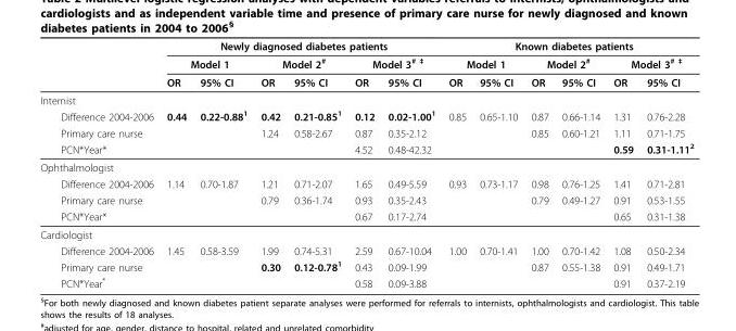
<table><thead><tr><td rowspan="3"></td><td colspan="6">Newly diagnosed diabetes patients</td><td colspan="6">Known diabetes patients</td></tr><tr><td colspan="2">Model 1</td><td colspan="2">Model 2<sup>#</sup></td><td colspan="2">Model 3<sup># ‡</sup></td><td colspan="2">Model 1</td><td colspan="2">Model 2<sup>#</sup></td><td colspan="2">Model 3<sup># ‡</sup></td></tr><tr><td>OR</td><td>95% CI</td><td>OR</td><td>95% CI</td><td>OR</td><td>95% CI</td><td>OR</td><td>95% CI</td><td>OR</td><td>95% CI</td><td>OR</td><td>95% CI</td></tr></thead><tbody><tr><td colspan="13">Internist</td></tr><tr><td>Difference 2004-2006</td><td>0.44</td><td>0.22-0.88<sup>1</sup></td><td>0.42</td><td>0.21-0.85<sup>1</sup></td><td>0.12</td><td>0.02-1.00<sup>1</sup></td><td>0.85</td><td>0.65-1.10</td><td>0.87</td><td>0.66-1.14</td><td>1.31</td><td>0.76-2.28</td></tr><tr><td>Primary care nurse</td><td></td><td></td><td>1.24</td><td>0.58-2.67</td><td>0.87</td><td>0.35-2.12</td><td></td><td></td><td>0.85</td><td>0.60-1.21</td><td>1.11</td><td>0.71-1.75</td></tr><tr><td>PCN*Year*</td><td></td><td></td><td></td><td></td><td>4.52</td><td>0.48-42.32</td><td></td><td></td><td></td><td></td><td>0.59</td><td>0.31-1.11<sup>2</sup></td></tr><tr><td colspan="13">Ophthalmologist</td></tr><tr><td>Difference 2004-2006</td><td>1.14</td><td>0.70-1.87</td><td>1.21</td><td>0.71-2.07</td><td>1.65</td><td>0.49-5.59</td><td>0.93</td><td>0.73-1.17</td><td>0.98</td><td>0.76-1.25</td><td>1.41</td><td>0.71-2.81</td></tr><tr><td>Primary care nurse</td><td></td><td></td><td>0.79</td><td>0.36-1.74</td><td>0.93</td><td>0.35-2.43</td><td></td><td></td><td>0.79</td><td>0.49-1.27</td><td>0.91</td><td>0.53-1.55</td></tr><tr><td>PCN*Year*</td><td></td><td></td><td></td><td></td><td>0.67</td><td>0.17-2.74</td><td></td><td></td><td></td><td></td><td>0.65</td><td>0.31-1.38</td></tr><tr><td colspan="13">Cardiologist</td></tr><tr><td>Difference 2004-2006</td><td>1.45</td><td>0.58-3.59</td><td>1.99</td><td>0.74-5.31</td><td>2.59</td><td>0.67-10.04</td><td>1.00</td><td>0.70-1.41</td><td>1.00</td><td>0.70-1.42</td><td>1.08</td><td>0.50-2.34</td></tr><tr><td>Primary care nurse</td><td></td><td></td><td>0.30</td><td>0.12-0.78<sup>1</sup></td><td>0.43</td><td>0.09-1.99</td><td></td><td></td><td>0.87</td><td>0.55-1.38</td><td>0.91</td><td>0.49-1.71</td></tr><tr><td>PCN*Year*</td><td></td><td></td><td></td><td></td><td>0.58</td><td>0.09-3.88</td><td></td><td></td><td></td><td></td><td>0.91</td><td>0.37-2.19</td></tr></tbody></table>